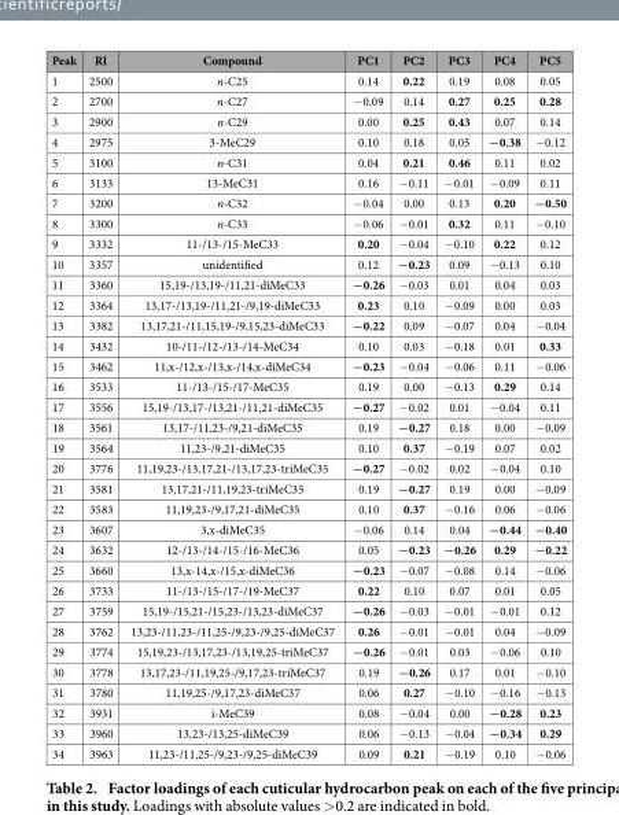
<table><thead><tr><td>Peak</td><td>RI</td><td>Compound</td><td>PC1</td><td>PC2</td><td>PC3</td><td>PC4</td><td>PC5</td></tr></thead><tbody><tr><td>1</td><td>2500</td><td>n-C25</td><td>0.14</td><td>0.22</td><td>0.19</td><td>0.08</td><td>0.05</td></tr><tr><td>2</td><td>2700</td><td>n-C27</td><td>− 0.09</td><td>0.14</td><td>0.27</td><td>0.25</td><td>0.28</td></tr><tr><td>3</td><td>2900</td><td>n-C29</td><td>0.00</td><td>0.25</td><td>0.43</td><td>0.07</td><td>0.14</td></tr><tr><td>4</td><td>2975</td><td>3-MeC29</td><td>0.10</td><td>0.18</td><td>0.05</td><td>−0.38</td><td>− 0.12</td></tr><tr><td>5</td><td>3100</td><td>n-C31</td><td>0.04</td><td>0.21</td><td>0.46</td><td>0.11</td><td>0.02</td></tr><tr><td>6</td><td>3133</td><td>13-MeC31</td><td>0.16</td><td>− 0.11</td><td>− 0.01</td><td>− 0.09</td><td>0.11</td></tr><tr><td>7</td><td>3200</td><td>n-C32</td><td>− 0.04</td><td>0.00</td><td>0.13</td><td>0.20</td><td>−0.50</td></tr><tr><td>8</td><td>3300</td><td>n-C33</td><td>− 0.06</td><td>− 0.01</td><td>0.32</td><td>0.11</td><td>− 0.10</td></tr><tr><td>9</td><td>3332</td><td>11-/13-/15-MeC33</td><td>0.20</td><td>− 0.04</td><td>− 0.10</td><td>0.22</td><td>0.12</td></tr><tr><td>10</td><td>3357</td><td>unidentified</td><td>0.12</td><td>−0.23</td><td>0.09</td><td>− 0.13</td><td>0.10</td></tr><tr><td>11</td><td>3360</td><td>15,19-/13,19-/11,21-diMeC33</td><td>−0.26</td><td>− 0.03</td><td>0.01</td><td>0.04</td><td>0.03</td></tr><tr><td>12</td><td>3364</td><td>13,17-/13,19-/11,21-/9,19-diMeC33</td><td>0.23</td><td>0.10</td><td>− 0.09</td><td>0.00</td><td>0.03</td></tr><tr><td>13</td><td>3382</td><td>13,17,21-/11,15,19-/9,15,23-diMeC33</td><td>−0.22</td><td>0.09</td><td>− 0.07</td><td>0.04</td><td>− 0.04</td></tr><tr><td>14</td><td>3432</td><td>10-/11-/12-/13-/14-MeC34</td><td>0.10</td><td>0.03</td><td>− 0.18</td><td>0.01</td><td>0.33</td></tr><tr><td>15</td><td>3462</td><td>11,x-/12,x-/13,x-/14,x-diMeC34</td><td>−0.23</td><td>− 0.04</td><td>− 0.06</td><td>0.11</td><td>− 0.06</td></tr><tr><td>16</td><td>3533</td><td>11-/13-/15-/17-MeC35</td><td>0.19</td><td>0.00</td><td>− 0.13</td><td>0.29</td><td>0.14</td></tr><tr><td>17</td><td>3556</td><td>15,19-/13,17-/13,21-/11,21-diMeC35</td><td>−0.27</td><td>− 0.02</td><td>0.01</td><td>− 0.04</td><td>0.11</td></tr><tr><td>18</td><td>3561</td><td>13,17-/11,23-/9,21-diMeC35</td><td>0.19</td><td>−0.27</td><td>0.18</td><td>0.00</td><td>− 0.09</td></tr><tr><td>19</td><td>3564</td><td>11,23-/9,21-diMeC35</td><td>0.10</td><td>0.37</td><td>− 0.19</td><td>0.07</td><td>0.02</td></tr><tr><td>20</td><td>3776</td><td>11,19,23-/13,17,21-/13,17,23-triMeC35</td><td>−0.27</td><td>− 0.02</td><td>0.02</td><td>− 0.04</td><td>0.10</td></tr><tr><td>21</td><td>3581</td><td>13,17,21-/11,19,23-triMeC35</td><td>0.19</td><td>−0.27</td><td>0.19</td><td>0.00</td><td>− 0.09</td></tr><tr><td>22</td><td>3583</td><td>11,19,23-/9,17,21-diMeC35</td><td>0.10</td><td>0.37</td><td>− 0.16</td><td>0.06</td><td>− 0.06</td></tr><tr><td>23</td><td>3607</td><td>3,x-diMeC35</td><td>− 0.06</td><td>0.14</td><td>0.04</td><td>−0.44</td><td>−0.40</td></tr><tr><td>24</td><td>3632</td><td>12-/13-/14-/15-/16-MeC36</td><td>0.05</td><td>−0.23</td><td>−0.26</td><td>0.29</td><td>−0.22</td></tr><tr><td>25</td><td>3660</td><td>13,x-14,x-/15,x-diMeC36</td><td>−0.23</td><td>− 0.07</td><td>− 0.08</td><td>0.14</td><td>− 0.06</td></tr><tr><td>26</td><td>3733</td><td>11-/13-/15-/17-/19-MeC37</td><td>0.22</td><td>0.10</td><td>0.07</td><td>0.01</td><td>0.05</td></tr><tr><td>27</td><td>3759</td><td>15,19-/15,21-/15,23-/13,23-diMeC37</td><td>−0.26</td><td>− 0.03</td><td>− 0.01</td><td>− 0.01</td><td>0.12</td></tr><tr><td>28</td><td>3762</td><td>13,23-/11,23-/11,25-/9,23-/9,25-diMeC37</td><td>0.26</td><td>− 0.01</td><td>− 0.01</td><td>0.04</td><td>− 0.09</td></tr><tr><td>29</td><td>3774</td><td>15,19,23-/13,17,23-/13,19,25-triMeC37</td><td>−0.26</td><td>− 0.01</td><td>0.03</td><td>− 0.06</td><td>0.10</td></tr><tr><td>30</td><td>3778</td><td>13,17,23-/11,19,25-/9,17,23-triMeC37</td><td>0.19</td><td>−0.26</td><td>0.17</td><td>0.01</td><td>− 0.10</td></tr><tr><td>31</td><td>3780</td><td>11,19,25-/9,17,23-diMeC37</td><td>0.06</td><td>0.27</td><td>− 0.10</td><td>− 0.16</td><td>− 0.13</td></tr><tr><td>32</td><td>3931</td><td>i-MeC39</td><td>0.08</td><td>− 0.04</td><td>0.00</td><td>−0.28</td><td>0.23</td></tr><tr><td>33</td><td>3960</td><td>13,23-/13,25-diMeC39</td><td>0.06</td><td>− 0.13</td><td>− 0.04</td><td>−0.34</td><td>0.29</td></tr><tr><td>34</td><td>3963</td><td>11,23-/11,25-/9,23-/9,25-diMeC39</td><td>0.09</td><td>0.21</td><td>− 0.19</td><td>0.10</td><td>− 0.06</td></tr></tbody></table>